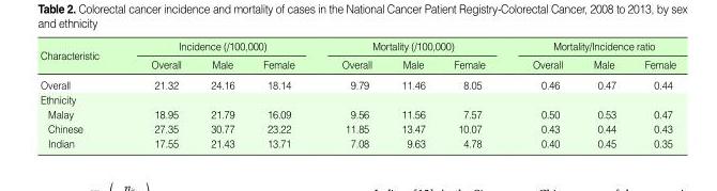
<table><thead><tr><td rowspan="2">Characteristic</td><td colspan="3">Incidence (/100,000)</td><td colspan="3">Mortality (/100,000)</td><td colspan="3">Mortality/Incidence ratio</td></tr><tr><td>Overall</td><td>Male</td><td>Female</td><td>Overall</td><td>Male</td><td>Female</td><td>Overall</td><td>Male</td><td>Female</td></tr></thead><tbody><tr><td>Overall</td><td>21.32</td><td>24.16</td><td>18.14</td><td>9.79</td><td>11.46</td><td>8.05</td><td>0.46</td><td>0.47</td><td>0.44</td></tr><tr><td colspan="10">Ethnicity</td></tr><tr><td>Malay</td><td>18.95</td><td>21.79</td><td>16.09</td><td>9.56</td><td>11.56</td><td>7.57</td><td>0.50</td><td>0.53</td><td>0.47</td></tr><tr><td>Chinese</td><td>27.35</td><td>30.77</td><td>23.22</td><td>11.85</td><td>13.47</td><td>10.07</td><td>0.43</td><td>0.44</td><td>0.43</td></tr><tr><td>Indian</td><td>17.55</td><td>21.43</td><td>13.71</td><td>7.08</td><td>9.63</td><td>4.78</td><td>0.40</td><td>0.45</td><td>0.35</td></tr></tbody></table>